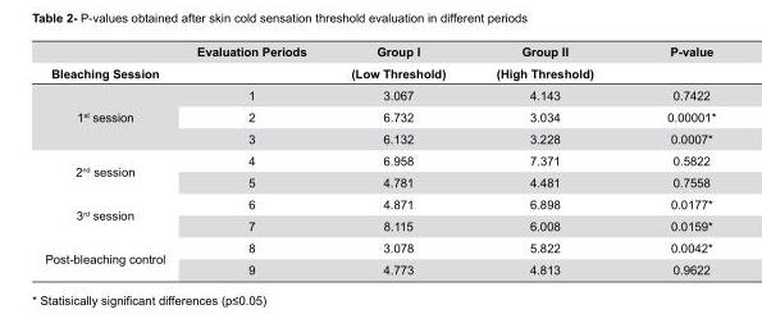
<table><thead><tr><td rowspan="2">Bleaching Session</td><td rowspan="2">Evaluation Periods</td><td rowspan="2">Group I (Low Threshold)</td><td rowspan="2">Group II (High Threshold)</td><td rowspan="2">P-value</td></tr><tr></tr></thead><tbody><tr><td rowspan="3">1<sup>st</sup> session</td><td>1</td><td>3.067</td><td>4.143</td><td>0.7422</td></tr><tr><td>2</td><td>6.732</td><td>3.034</td><td>0.00001*</td></tr><tr><td>3</td><td>6.132</td><td>3.228</td><td>0.0007*</td></tr><tr><td rowspan="2">2<sup>nd</sup> session</td><td>4</td><td>6.958</td><td>7.371</td><td>0.5822</td></tr><tr><td>5</td><td>4.781</td><td>4.481</td><td>0.7558</td></tr><tr><td rowspan="2">3<sup>rd</sup> session</td><td>6</td><td>4.871</td><td>6.898</td><td>0.0177*</td></tr><tr><td>7</td><td>8.115</td><td>6.008</td><td>0.0159*</td></tr><tr><td rowspan="2">Post-bleaching control</td><td>8</td><td>3.078</td><td>5.822</td><td>0.0042*</td></tr><tr><td>9</td><td>4.773</td><td>4.813</td><td>0.9622</td></tr></tbody></table>